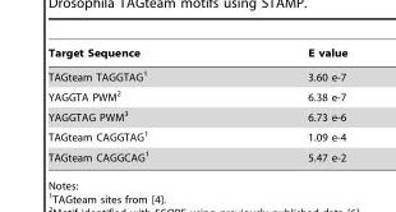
<table><thead><tr><td>Target Sequence</td><td>E value</td></tr></thead><tbody><tr><td>TAGteam TAGGTAG<sup>1</sup></td><td>3.60 e-7</td></tr><tr><td>YAGGTA PWM<sup>2</sup></td><td>6.38 e-7</td></tr><tr><td>YAGGTAG PWM<sup>3</sup></td><td>6.73 e-6</td></tr><tr><td>TAGteam CAGGTAG<sup>1</sup></td><td>1.09 e-4</td></tr><tr><td>TAGteam CAGGCAG<sup>1</sup></td><td>5.47 e-2</td></tr></tbody></table>